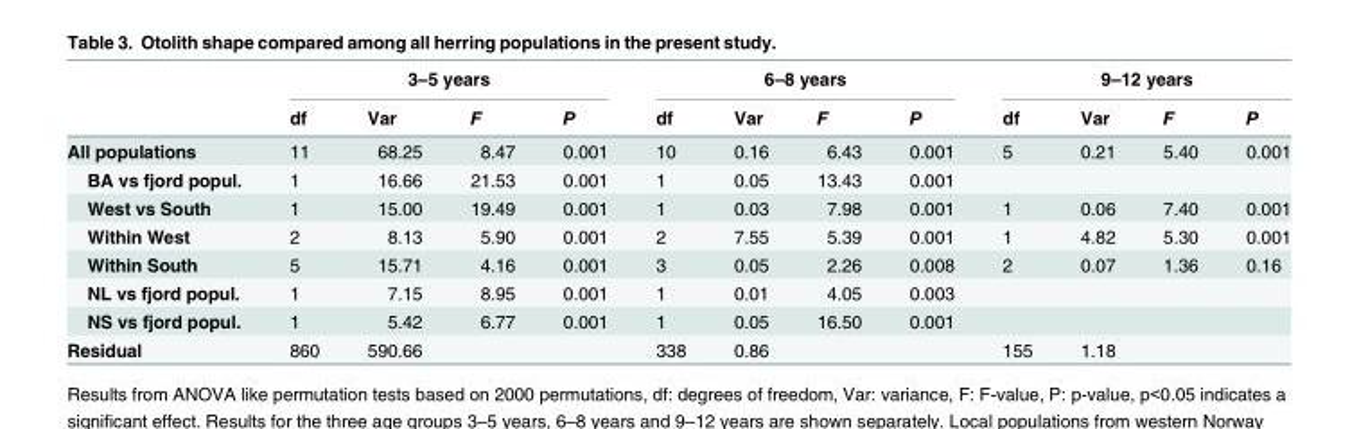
<table><thead><tr><td rowspan="2"></td><td colspan="4">3–5 years</td><td colspan="4">6–8 years</td><td colspan="4">9–12 years</td></tr><tr><td>df</td><td>Var</td><td>F</td><td>P</td><td>df</td><td>Var</td><td>F</td><td>P</td><td>df</td><td>Var</td><td>F</td><td>P</td></tr></thead><tbody><tr><td>All populations</td><td>11</td><td>68.25</td><td>8.47</td><td>0.001</td><td>10</td><td>0.16</td><td>6.43</td><td>0.001</td><td>5</td><td>0.21</td><td>5.40</td><td>0.001</td></tr><tr><td>BA vs fjord popul.</td><td>1</td><td>16.66</td><td>21.53</td><td>0.001</td><td>1</td><td>0.05</td><td>13.43</td><td>0.001</td><td></td><td></td><td></td><td></td></tr><tr><td>West vs South</td><td>1</td><td>15.00</td><td>19.49</td><td>0.001</td><td>1</td><td>0.03</td><td>7.98</td><td>0.001</td><td>1</td><td>0.06</td><td>7.40</td><td>0.001</td></tr><tr><td>Within West</td><td>2</td><td>8.13</td><td>5.90</td><td>0.001</td><td>2</td><td>7.55</td><td>5.39</td><td>0.001</td><td>1</td><td>4.82</td><td>5.30</td><td>0.001</td></tr><tr><td>Within South</td><td>5</td><td>15.71</td><td>4.16</td><td>0.001</td><td>3</td><td>0.05</td><td>2.26</td><td>0.008</td><td>2</td><td>0.07</td><td>1.36</td><td>0.16</td></tr><tr><td>NL vs fjord popul.</td><td>1</td><td>7.15</td><td>8.95</td><td>0.001</td><td>1</td><td>0.01</td><td>4.05</td><td>0.003</td><td></td><td></td><td></td><td></td></tr><tr><td>NS vs fjord popul.</td><td>1</td><td>5.42</td><td>6.77</td><td>0.001</td><td>1</td><td>0.05</td><td>16.50</td><td>0.001</td><td></td><td></td><td></td><td></td></tr><tr><td>Residual</td><td>860</td><td>590.66</td><td></td><td></td><td>338</td><td>0.86</td><td></td><td></td><td>155</td><td>1.18</td><td></td><td></td></tr></tbody></table>